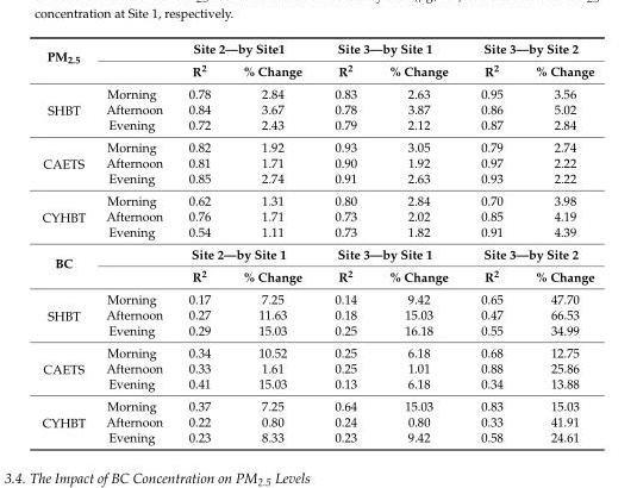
<table><tbody><tr><td rowspan="2">PM<sub>2.5</sub></td><td></td><td colspan="2">Site 2—by Site1</td><td colspan="2">Site 3—by Site 1</td><td colspan="2">Site 3—by Site 2</td></tr><tr><td></td><td>R<sup>2</sup></td><td>% Change</td><td>R<sup>2</sup></td><td>% Change</td><td>R<sup>2</sup></td><td>% Change</td></tr><tr><td rowspan="3">SHBT</td><td>Morning</td><td>0.78</td><td>2.84</td><td>0.83</td><td>2.63</td><td>0.95</td><td>3.56</td></tr><tr><td>Afternoon</td><td>0.84</td><td>3.67</td><td>0.78</td><td>3.87</td><td>0.86</td><td>5.02</td></tr><tr><td>Evening</td><td>0.72</td><td>2.43</td><td>0.79</td><td>2.12</td><td>0.87</td><td>2.84</td></tr><tr><td rowspan="3">CAETS</td><td>Morning</td><td>0.82</td><td>1.92</td><td>0.93</td><td>3.05</td><td>0.79</td><td>2.74</td></tr><tr><td>Afternoon</td><td>0.81</td><td>1.71</td><td>0.90</td><td>1.92</td><td>0.97</td><td>2.22</td></tr><tr><td>Evening</td><td>0.85</td><td>2.74</td><td>0.91</td><td>2.63</td><td>0.93</td><td>2.22</td></tr><tr><td rowspan="3">CYHBT</td><td>Morning</td><td>0.62</td><td>1.31</td><td>0.80</td><td>2.84</td><td>0.70</td><td>3.98</td></tr><tr><td>Afternoon</td><td>0.76</td><td>1.71</td><td>0.73</td><td>2.02</td><td>0.85</td><td>4.19</td></tr><tr><td>Evening</td><td>0.54</td><td>1.11</td><td>0.73</td><td>1.82</td><td>0.91</td><td>4.39</td></tr><tr><td rowspan="2">BC</td><td></td><td colspan="2">Site 2—by Site 1</td><td colspan="2">Site 3—by Site 1</td><td colspan="2">Site 3—by Site 2</td></tr><tr><td></td><td>R<sup>2</sup></td><td>% Change</td><td>R<sup>2</sup></td><td>% Change</td><td>R<sup>2</sup></td><td>% Change</td></tr><tr><td rowspan="3">SHBT</td><td>Morning</td><td>0.17</td><td>7.25</td><td>0.14</td><td>9.42</td><td>0.65</td><td>47.70</td></tr><tr><td>Afternoon</td><td>0.27</td><td>11.63</td><td>0.18</td><td>15.03</td><td>0.47</td><td>66.53</td></tr><tr><td>Evening</td><td>0.29</td><td>15.03</td><td>0.25</td><td>16.18</td><td>0.55</td><td>34.99</td></tr><tr><td rowspan="3">CAETS</td><td>Morning</td><td>0.34</td><td>10.52</td><td>0.25</td><td>6.18</td><td>0.68</td><td>12.75</td></tr><tr><td>Afternoon</td><td>0.33</td><td>1.61</td><td>0.25</td><td>1.01</td><td>0.88</td><td>25.86</td></tr><tr><td>Evening</td><td>0.41</td><td>15.03</td><td>0.13</td><td>6.18</td><td>0.34</td><td>13.88</td></tr><tr><td rowspan="3">CYHBT</td><td>Morning</td><td>0.37</td><td>7.25</td><td>0.64</td><td>15.03</td><td>0.83</td><td>15.03</td></tr><tr><td>Afternoon</td><td>0.22</td><td>0.80</td><td>0.24</td><td>0.80</td><td>0.33</td><td>41.91</td></tr><tr><td>Evening</td><td>0.23</td><td>8.33</td><td>0.23</td><td>9.42</td><td>0.58</td><td>24.61</td></tr></tbody></table>